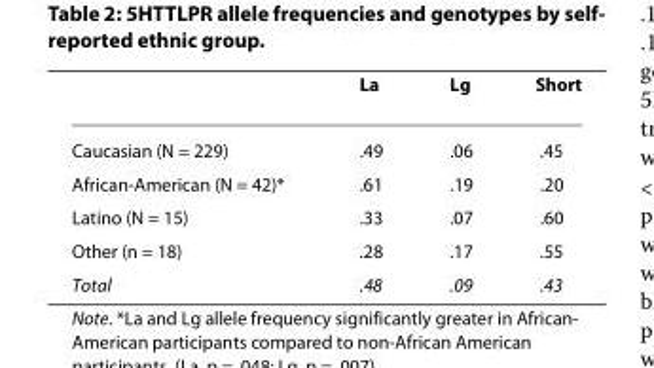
<table><thead><tr><td></td><td>La</td><td>Lg</td><td>Short</td></tr></thead><tbody><tr><td>Caucasian (N = 229)</td><td>.49</td><td>.06</td><td>.45</td></tr><tr><td>African-American (N = 42)*</td><td>.61</td><td>.19</td><td>.20</td></tr><tr><td>Latino (N = 15)</td><td>.33</td><td>.07</td><td>.60</td></tr><tr><td>Other (n = 18)</td><td>.28</td><td>.17</td><td>.55</td></tr><tr><td>Total</td><td>.48</td><td>.09</td><td>.43</td></tr></tbody></table>